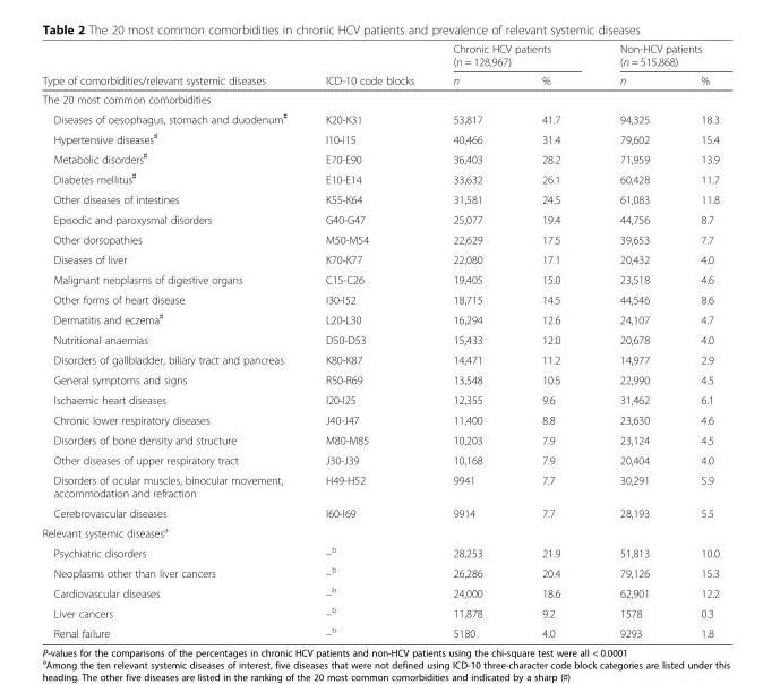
<table><thead><tr><td rowspan="2">Type of comorbidities/relevant systemic diseases</td><td rowspan="2">ICD-10 code blocks</td><td colspan="2">Chronic HCV patients (n = 128,967)</td><td colspan="2">Non-HCV patients (n = 515,868)</td></tr><tr><td>n</td><td>%</td><td>n</td><td>%</td></tr></thead><tbody><tr><td colspan="6">The 20 most common comorbidities</td></tr><tr><td>Diseases of oesophagus, stomach and duodenum<sup>♯</sup></td><td>K20-K31</td><td>53,817</td><td>41.7</td><td>94,325</td><td>18.3</td></tr><tr><td>Hypertensive diseases<sup>♯</sup></td><td>I10-I15</td><td>40,466</td><td>31.4</td><td>79,602</td><td>15.4</td></tr><tr><td>Metabolic disorders<sup>♯</sup></td><td>E70-E90</td><td>36,403</td><td>28.2</td><td>71,959</td><td>13.9</td></tr><tr><td>Diabetes mellitus<sup>♯</sup></td><td>E10-E14</td><td>33,632</td><td>26.1</td><td>60,428</td><td>11.7</td></tr><tr><td>Other diseases of intestines</td><td>K55-K64</td><td>31,581</td><td>24.5</td><td>61,083</td><td>11.8</td></tr><tr><td>Episodic and paroxysmal disorders</td><td>G40-G47</td><td>25,077</td><td>19.4</td><td>44,756</td><td>8.7</td></tr><tr><td>Other dorsopathies</td><td>M50-M54</td><td>22,629</td><td>17.5</td><td>39,653</td><td>7.7</td></tr><tr><td>Diseases of liver</td><td>K70-K77</td><td>22,080</td><td>17.1</td><td>20,432</td><td>4.0</td></tr><tr><td>Malignant neoplasms of digestive organs</td><td>C15-C26</td><td>19,405</td><td>15.0</td><td>23,518</td><td>4.6</td></tr><tr><td>Other forms of heart disease</td><td>I30-I52</td><td>18,715</td><td>14.5</td><td>44,546</td><td>8.6</td></tr><tr><td>Dermatitis and eczema<sup>♯</sup></td><td>L20-L30</td><td>16,294</td><td>12.6</td><td>24,107</td><td>4.7</td></tr><tr><td>Nutritional anaemias</td><td>D50-D53</td><td>15,433</td><td>12.0</td><td>20,678</td><td>4.0</td></tr><tr><td>Disorders of gallbladder, biliary tract and pancreas</td><td>K80-K87</td><td>14,471</td><td>11.2</td><td>14,977</td><td>2.9</td></tr><tr><td>General symptoms and signs</td><td>R50-R69</td><td>13,548</td><td>10.5</td><td>22,990</td><td>4.5</td></tr><tr><td>Ischaemic heart diseases</td><td>I20-I25</td><td>12,355</td><td>9.6</td><td>31,462</td><td>6.1</td></tr><tr><td>Chronic lower respiratory diseases</td><td>J40-J47</td><td>11,400</td><td>8.8</td><td>23,630</td><td>4.6</td></tr><tr><td>Disorders of bone density and structure</td><td>M80-M85</td><td>10,203</td><td>7.9</td><td>23,124</td><td>4.5</td></tr><tr><td>Other diseases of upper respiratory tract</td><td>J30-J39</td><td>10,168</td><td>7.9</td><td>20,404</td><td>4.0</td></tr><tr><td>Disorders of ocular muscles, binocular movement, accommodation and refraction</td><td>H49-H52</td><td>9941</td><td>7.7</td><td>30,291</td><td>5.9</td></tr><tr><td>Cerebrovascular diseases</td><td>I60-I69</td><td>9914</td><td>7.7</td><td>28,193</td><td>5.5</td></tr><tr><td colspan="6">Relevant systemic diseases<sup>a</sup></td></tr><tr><td>Psychiatric disorders</td><td>–<sup>b</sup></td><td>28,253</td><td>21.9</td><td>51,813</td><td>10.0</td></tr><tr><td>Neoplasms other than liver cancers</td><td>–<sup>b</sup></td><td>26,286</td><td>20.4</td><td>79,126</td><td>15.3</td></tr><tr><td>Cardiovascular diseases</td><td>–<sup>b</sup></td><td>24,000</td><td>18.6</td><td>62,901</td><td>12.2</td></tr><tr><td>Liver cancers</td><td>–<sup>b</sup></td><td>11,878</td><td>9.2</td><td>1578</td><td>0.3</td></tr><tr><td>Renal failure</td><td>–<sup>b</sup></td><td>5180</td><td>4.0</td><td>9293</td><td>1.8</td></tr></tbody></table>